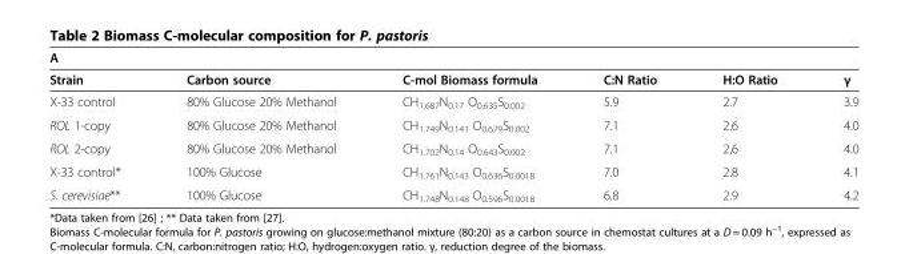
<table><thead><tr><td colspan="6">A</td></tr><tr><td>Strain</td><td>Carbon source</td><td>C-mol Biomass formula</td><td>C:N Ratio</td><td>H:O Ratio</td><td>γ</td></tr></thead><tbody><tr><td>X-33 control</td><td>80% Glucose 20% Methanol</td><td>CH<sub>1.687</sub>N<sub>0.17</sub> O<sub>0.635</sub>S<sub>0.002</sub></td><td>5.9</td><td>2.7</td><td>3.9</td></tr><tr><td>ROL 1-copy</td><td>80% Glucose 20% Methanol</td><td>CH<sub>1.749</sub>N<sub>0.141</sub> O<sub>0.679</sub>S<sub>0.002</sub></td><td>7.1</td><td>2.6</td><td>4.0</td></tr><tr><td>ROL 2-copy</td><td>80% Glucose 20% Methanol</td><td>CH<sub>1.702</sub>N<sub>0.14</sub> O<sub>0.643</sub>S<sub>0.002</sub></td><td>7.1</td><td>2,6</td><td>4.0</td></tr><tr><td>X-33 control*</td><td>100% Glucose</td><td>CH<sub>1.761</sub>N<sub>0.143</sub> O<sub>0.636</sub>S<sub>0.0018</sub></td><td>7.0</td><td>2.8</td><td>4.1</td></tr><tr><td>S. cerevisiae**</td><td>100% Glucose</td><td>CH<sub>1.748</sub>N<sub>0.148</sub> O<sub>0.596</sub>S<sub>0.0018</sub></td><td>6.8</td><td>2.9</td><td>4.2</td></tr></tbody></table>